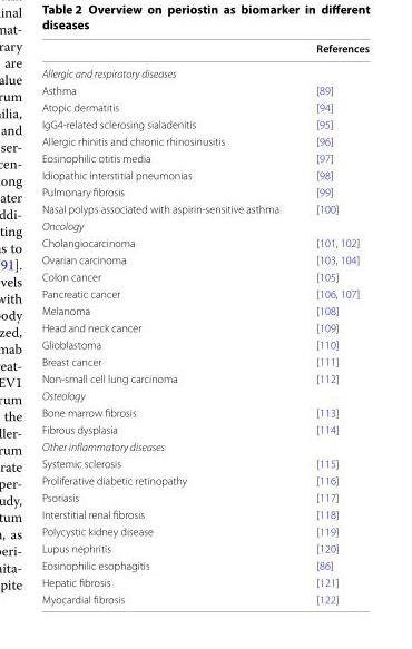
<table><thead><tr><td></td><td>References</td></tr></thead><tbody><tr><td colspan="2">Allergic and respiratory diseases</td></tr><tr><td>Asthma</td><td>[89]</td></tr><tr><td>Atopic dermatitis</td><td>[94]</td></tr><tr><td>IgG4-related sclerosing sialadenitis</td><td>[95]</td></tr><tr><td>Allergic rhinitis and chronic rhinosinusitis</td><td>[96]</td></tr><tr><td>Eosinophilic otitis media</td><td>[97]</td></tr><tr><td>Idiopathic interstitial pneumonias</td><td>[98]</td></tr><tr><td>Pulmonary fibrosis</td><td>[99]</td></tr><tr><td>Nasal polyps associated with aspirin-sensitive asthma</td><td>[100]</td></tr><tr><td colspan="2">Oncology</td></tr><tr><td>Cholangiocarcinoma</td><td>[101, 102]</td></tr><tr><td>Ovarian carcinoma</td><td>[103, 104]</td></tr><tr><td>Colon cancer</td><td>[105]</td></tr><tr><td>Pancreatic cancer</td><td>[106, 107]</td></tr><tr><td>Melanoma</td><td>[108]</td></tr><tr><td>Head and neck cancer</td><td>[109]</td></tr><tr><td>Glioblastoma</td><td>[110]</td></tr><tr><td>Breast cancer</td><td>[111]</td></tr><tr><td>Non-small cell lung carcinoma</td><td>[112]</td></tr><tr><td colspan="2">Osteology</td></tr><tr><td>Bone marrow fibrosis</td><td>[113]</td></tr><tr><td>Fibrous dysplasia</td><td>[114]</td></tr><tr><td colspan="2">Other inflammatory diseases</td></tr><tr><td>Systemic sclerosis</td><td>[115]</td></tr><tr><td>Proliferative diabetic retinopathy</td><td>[116]</td></tr><tr><td>Psoriasis</td><td>[117]</td></tr><tr><td>Interstitial renal fibrosis</td><td>[118]</td></tr><tr><td>Polycystic kidney disease</td><td>[119]</td></tr><tr><td>Lupus nephritis</td><td>[120]</td></tr><tr><td>Eosinophilic esophagitis</td><td>[86]</td></tr><tr><td>Hepatic fibrosis</td><td>[121]</td></tr><tr><td>Myocardial fibrosis</td><td>[122]</td></tr></tbody></table>